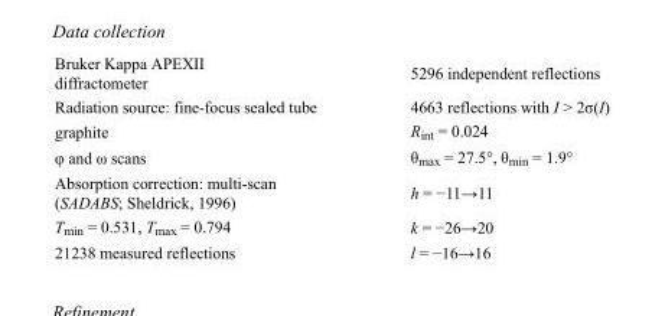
<table><tbody><tr><td>Bruker Kappa APEXII diffractometer</td><td>5296 independent reflections</td></tr><tr><td>Radiation source: fine-focus sealed tube</td><td>4663 reflections with I &gt; 2σ(I)</td></tr><tr><td>graphite</td><td>R<sub>int</sub> = 0.024</td></tr><tr><td>φ and ω scans</td><td>θ<sub>max</sub> = 27.5°, θ<sub>min</sub> = 1.9°</td></tr><tr><td>Absorption correction: multi-scan (SADABS; Sheldrick, 1996)</td><td>h = −11→11</td></tr><tr><td>T<sub>min</sub> = 0.531, T<sub>max</sub> = 0.794</td><td>k = −26→20</td></tr><tr><td>21238 measured reflections</td><td>l = −16→16</td></tr></tbody></table>